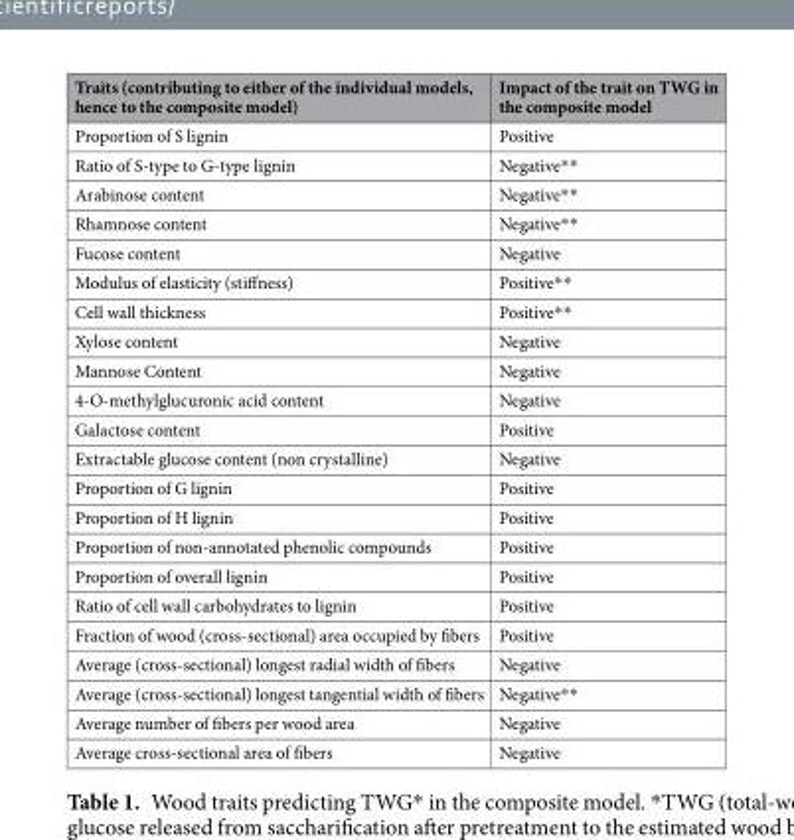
<table><thead><tr><td>Traits (contributing to either of the individual models, hence to the composite model)</td><td>Impact of the trait on TWG in the composite model</td></tr></thead><tbody><tr><td>Proportion of S lignin</td><td>Positive</td></tr><tr><td>Ratio of S-type to G-type lignin</td><td>Negative**</td></tr><tr><td>Arabinose content</td><td>Negative**</td></tr><tr><td>Rhamnose content</td><td>Negative**</td></tr><tr><td>Fucose content</td><td>Negative</td></tr><tr><td>Modulus of elasticity (stiffness)</td><td>Positive**</td></tr><tr><td>Cell wall thickness</td><td>Positive**</td></tr><tr><td>Xylose content</td><td>Negative</td></tr><tr><td>Mannose Content</td><td>Negative</td></tr><tr><td>4-O-methylglucuronic acid content</td><td>Negative</td></tr><tr><td>Galactose content</td><td>Positive</td></tr><tr><td>Extractable glucose content (non crystalline)</td><td>Negative</td></tr><tr><td>Proportion of G lignin</td><td>Positive</td></tr><tr><td>Proportion of H lignin</td><td>Positive</td></tr><tr><td>Proportion of non-annotated phenolic compounds</td><td>Positive</td></tr><tr><td>Proportion of overall lignin</td><td>Positive</td></tr><tr><td>Ratio of cell wall carbohydrates to lignin</td><td>Positive</td></tr><tr><td>Fraction of wood (cross-sectional) area occupied by fibers</td><td>Positive</td></tr><tr><td>Average (cross-sectional) longest radial width of fibers</td><td>Negative</td></tr><tr><td>Average (cross-sectional) longest tangential width of fibers</td><td>Negative**</td></tr><tr><td>Average number of fibers per wood area</td><td>Negative</td></tr><tr><td>Average cross-sectional area of fibers</td><td>Negative</td></tr></tbody></table>